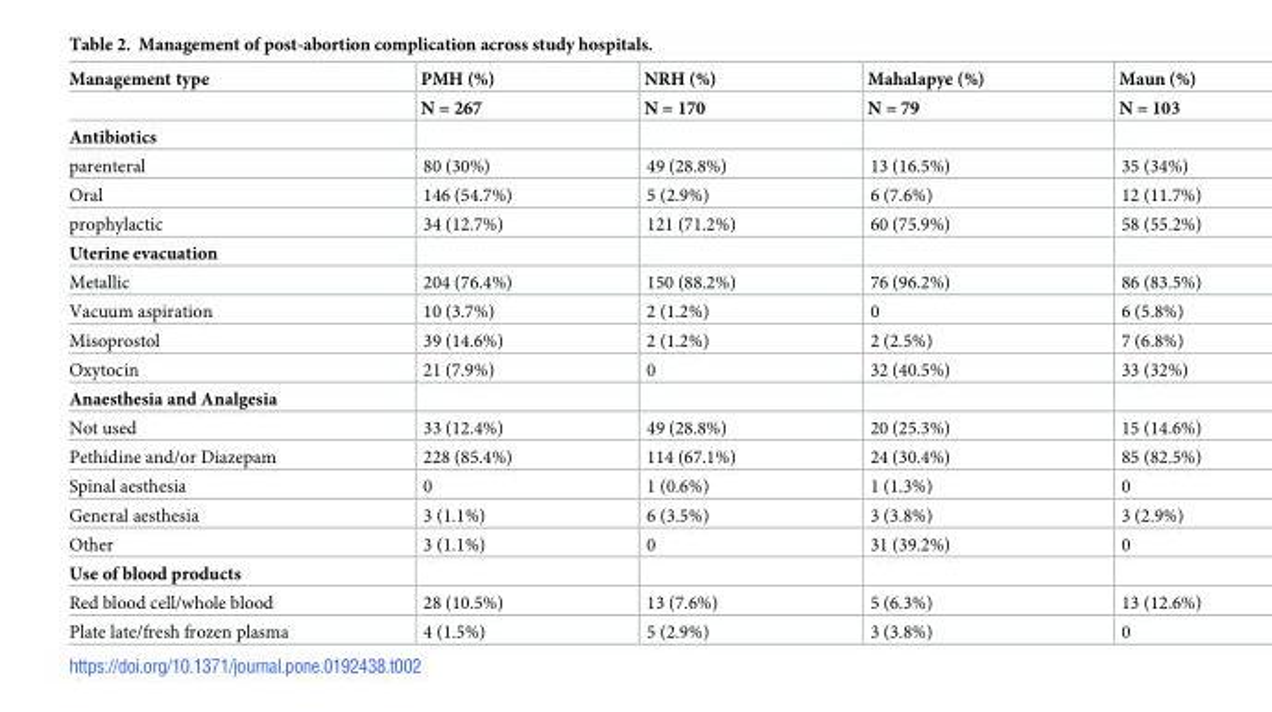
<table><thead><tr><td rowspan="2">Management type</td><td rowspan="2">PMH (%) N = 267</td><td rowspan="2">NRH (%) N = 170</td><td rowspan="2">Mahalapye (%) N = 79</td><td rowspan="2">Maun (%) N = 103</td></tr><tr></tr></thead><tbody><tr><td colspan="5">Antibiotics</td></tr><tr><td>parenteral</td><td>80 (30%)</td><td>49 (28.8%)</td><td>13 (16.5%)</td><td>35 (34%)</td></tr><tr><td>Oral</td><td>146 (54.7%)</td><td>5 (2.9%)</td><td>6 (7.6%)</td><td>12 (11.7%)</td></tr><tr><td>prophylactic</td><td>34 (12.7%)</td><td>121 (71.2%)</td><td>60 (75.9%)</td><td>58 (55.2%)</td></tr><tr><td colspan="5">Uterine evacuation</td></tr><tr><td>Metallic</td><td>204 (76.4%)</td><td>150 (88.2%)</td><td>76 (96.2%)</td><td>86 (83.5%)</td></tr><tr><td>Vacuum aspiration</td><td>10 (3.7%)</td><td>2 (1.2%)</td><td>0</td><td>6 (5.8%)</td></tr><tr><td>Misoprostol</td><td>39 (14.6%)</td><td>2 (1.2%)</td><td>2 (2.5%)</td><td>7 (6.8%)</td></tr><tr><td>Oxytocin</td><td>21 (7.9%)</td><td>0</td><td>32 (40.5%)</td><td>33 (32%)</td></tr><tr><td colspan="5">Anaesthesia and Analgesia</td></tr><tr><td>Not used</td><td>33 (12.4%)</td><td>49 (28.8%)</td><td>20 (25.3%)</td><td>15 (14.6%)</td></tr><tr><td>Pethidine and/or Diazepam</td><td>228 (85.4%)</td><td>114 (67.1%)</td><td>24 (30.4%)</td><td>85 (82.5%)</td></tr><tr><td>Spinal aesthesia</td><td>0</td><td>1 (0.6%)</td><td>1 (1.3%)</td><td>0</td></tr><tr><td>General aesthesia</td><td>3 (1.1%)</td><td>6 (3.5%)</td><td>3 (3.8%)</td><td>3 (2.9%)</td></tr><tr><td>Other</td><td>3 (1.1%)</td><td>0</td><td>31 (39.2%)</td><td>0</td></tr><tr><td colspan="5">Use of blood products</td></tr><tr><td>Red blood cell/whole blood</td><td>28 (10.5%)</td><td>13 (7.6%)</td><td>5 (6.3%)</td><td>13 (12.6%)</td></tr><tr><td>Plate late/fresh frozen plasma</td><td>4 (1.5%)</td><td>5 (2.9%)</td><td>3 (3.8%)</td><td>0</td></tr></tbody></table>